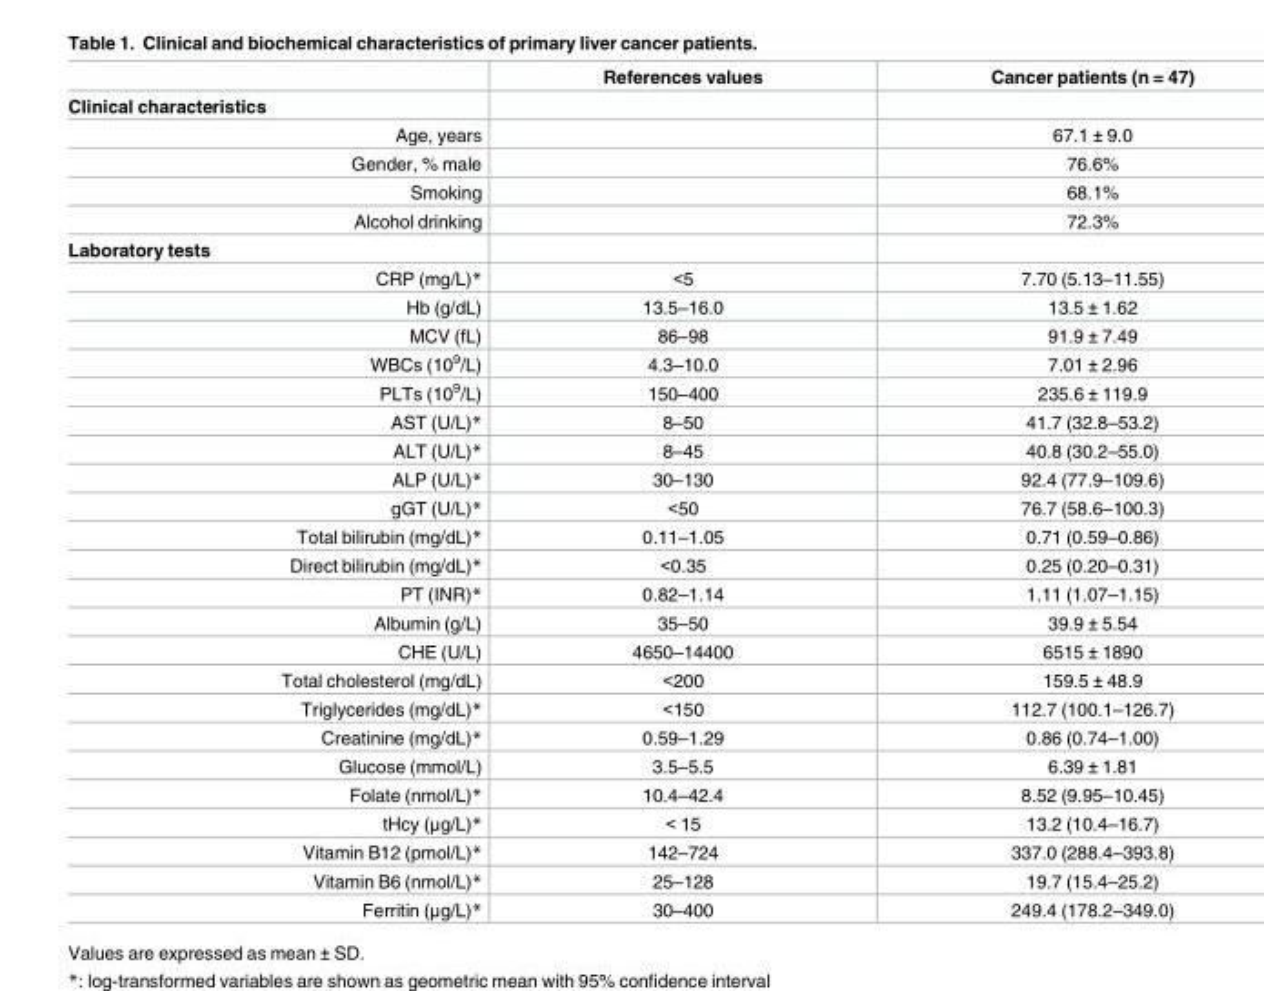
<table><thead><tr><td></td><td>References values</td><td>Cancer patients (n = 47)</td></tr></thead><tbody><tr><td colspan="3">Clinical characteristics</td></tr><tr><td>Age, years</td><td></td><td>67.1 ± 9.0</td></tr><tr><td>Gender, % male</td><td></td><td>76.6%</td></tr><tr><td>Smoking</td><td></td><td>68.1%</td></tr><tr><td>Alcohol drinking</td><td></td><td>72.3%</td></tr><tr><td colspan="3">Laboratory tests</td></tr><tr><td>CRP (mg/L)*</td><td>&lt;5</td><td>7.70 (5.13–11.55)</td></tr><tr><td>Hb (g/dL)</td><td>13.5–16.0</td><td>13.5 ± 1.62</td></tr><tr><td>MCV (fL)</td><td>86–98</td><td>91.9 ± 7.49</td></tr><tr><td>WBCs (10<sup>9</sup>/L)</td><td>4.3–10.0</td><td>7.01 ± 2.96</td></tr><tr><td>PLTs (10<sup>9</sup>/L)</td><td>150–400</td><td>235.6 ± 119.9</td></tr><tr><td>AST (U/L)*</td><td>8–50</td><td>41.7 (32.8–53.2)</td></tr><tr><td>ALT (U/L)*</td><td>8–45</td><td>40.8 (30.2–55.0)</td></tr><tr><td>ALP (U/L)*</td><td>30–130</td><td>92.4 (77.9–109.6)</td></tr><tr><td>gGT (U/L)*</td><td>&lt;50</td><td>76.7 (58.6–100.3)</td></tr><tr><td>Total bilirubin (mg/dL)*</td><td>0.11–1.05</td><td>0.71 (0.59–0.86)</td></tr><tr><td>Direct bilirubin (mg/dL)*</td><td>&lt;0.35</td><td>0.25 (0.20–0.31)</td></tr><tr><td>PT (INR)*</td><td>0.82–1.14</td><td>1.11 (1.07–1.15)</td></tr><tr><td>Albumin (g/L)</td><td>35–50</td><td>39.9 ± 5.54</td></tr><tr><td>CHE (U/L)</td><td>4650–14400</td><td>6515 ± 1890</td></tr><tr><td>Total cholesterol (mg/dL)</td><td>&lt;200</td><td>159.5 ± 48.9</td></tr><tr><td>Triglycerides (mg/dL)*</td><td>&lt;150</td><td>112.7 (100.1–126.7)</td></tr><tr><td>Creatinine (mg/dL)*</td><td>0.59–1.29</td><td>0.86 (0.74–1.00)</td></tr><tr><td>Glucose (mmol/L)</td><td>3.5–5.5</td><td>6.39 ± 1.81</td></tr><tr><td>Folate (nmol/L)*</td><td>10.4–42.4</td><td>8.52 (9.95–10.45)</td></tr><tr><td>tHcy (μg/L)*</td><td>&lt; 15</td><td>13.2 (10.4–16.7)</td></tr><tr><td>Vitamin B12 (pmol/L)*</td><td>142–724</td><td>337.0 (288.4–393.8)</td></tr><tr><td>Vitamin B6 (nmol/L)*</td><td>25–128</td><td>19.7 (15.4–25.2)</td></tr><tr><td>Ferritin (μg/L)*</td><td>30–400</td><td>249.4 (178.2–349.0)</td></tr></tbody></table>